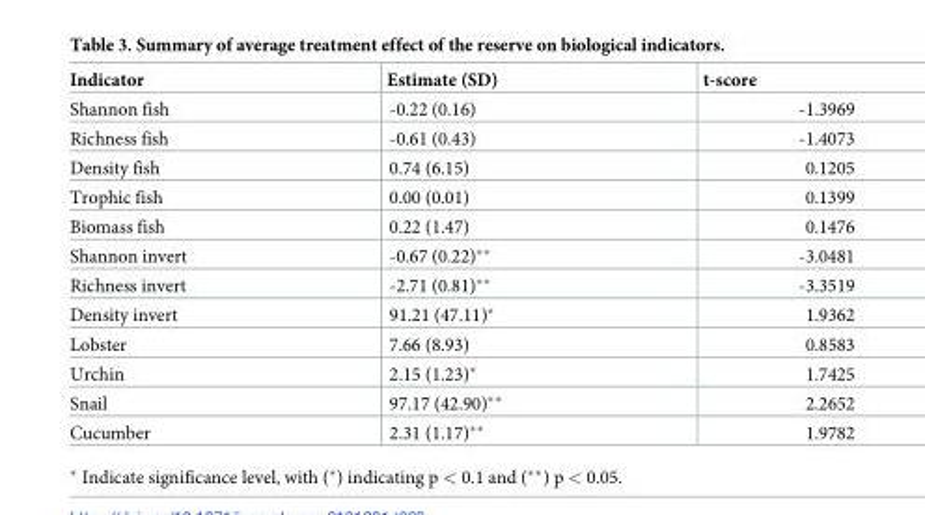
<table><thead><tr><td>Indicator</td><td>Estimate (SD)</td><td>t-score</td></tr></thead><tbody><tr><td>Shannon fish</td><td>-0.22 (0.16)</td><td>-1.3969</td></tr><tr><td>Richness fish</td><td>-0.61 (0.43)</td><td>-1.4073</td></tr><tr><td>Density fish</td><td>0.74 (6.15)</td><td>0.1205</td></tr><tr><td>Trophic fish</td><td>0.00 (0.01)</td><td>0.1399</td></tr><tr><td>Biomass fish</td><td>0.22 (1.47)</td><td>0.1476</td></tr><tr><td>Shannon invert</td><td>-0.67 (0.22)**</td><td>-3.0481</td></tr><tr><td>Richness invert</td><td>-2.71 (0.81)**</td><td>-3.3519</td></tr><tr><td>Density invert</td><td>91.21 (47.11)*</td><td>1.9362</td></tr><tr><td>Lobster</td><td>7.66 (8.93)</td><td>0.8583</td></tr><tr><td>Urchin</td><td>2.15 (1.23)*</td><td>1.7425</td></tr><tr><td>Snail</td><td>97.17 (42.90)**</td><td>2.2652</td></tr><tr><td>Cucumber</td><td>2.31 (1.17)**</td><td>1.9782</td></tr></tbody></table>